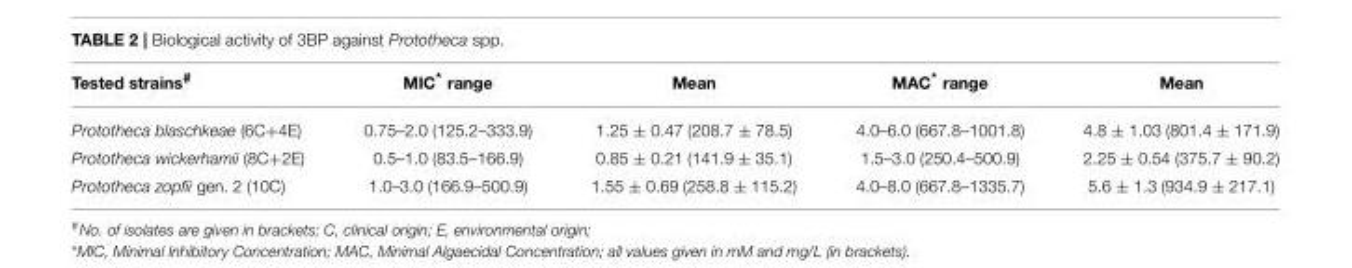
<table><thead><tr><td>Tested strains<sup>#</sup></td><td>MIC* range</td><td>Mean</td><td>MAC* range</td><td>Mean</td></tr></thead><tbody><tr><td>Prototheca blaschkeae (6C+4E)</td><td>0.75–2.0 (125.2–333.9)</td><td>1.25 ± 0.47 (208.7 ± 78.5)</td><td>4.0–6.0 (667.8–1001.8)</td><td>4.8 ± 1.03 (801.4 ± 171.9)</td></tr><tr><td>Prototheca wickerhamii (8C+2E)</td><td>0.5–1.0 (83.5–166.9)</td><td>0.85 ± 0.21 (141.9 ± 35.1)</td><td>1.5–3.0 (250.4–500.9)</td><td>2.25 ± 0.54 (375.7 ± 90.2)</td></tr><tr><td>Prototheca zopfii gen. 2 (10C)</td><td>1.0–3.0 (166.9–500.9)</td><td>1.55 ± 0.69 (258.8 ± 115.2)</td><td>4.0–8.0 (667.8–1335.7)</td><td>5.6 ± 1.3 (934.9 ± 217.1)</td></tr></tbody></table>